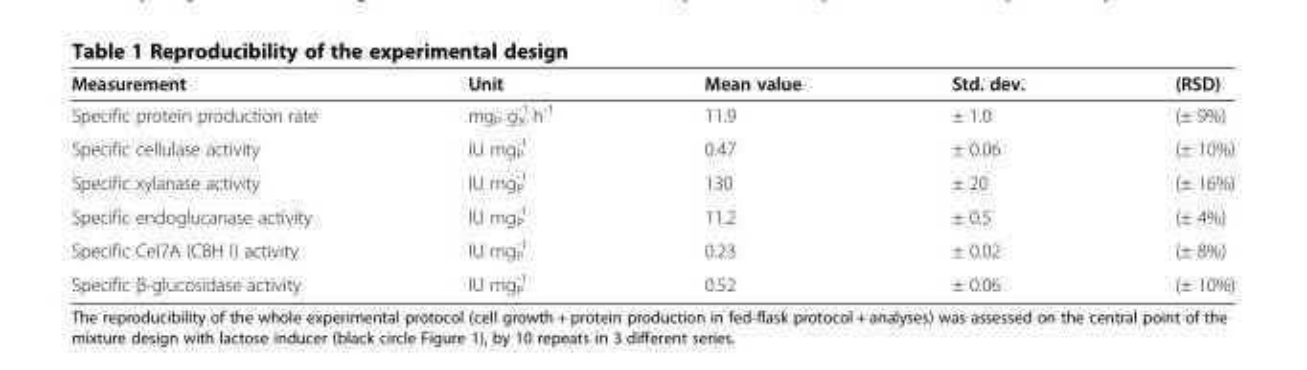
<table><thead><tr><td>Measurement</td><td>Unit</td><td>Mean value</td><td>Std. dev.</td><td>(RSD)</td></tr></thead><tbody><tr><td>Specific protein production rate</td><td>mg<sub>P</sub> g<sub>X</sub> <sup>-1</sup> h<sup>-1</sup></td><td>11.9</td><td>± 1.0</td><td>(± 9%)</td></tr><tr><td>Specific cellulase activity</td><td>IU mg<sub>P</sub> <sup>-1</sup></td><td>0.47</td><td>± 0.06</td><td>(± 10%)</td></tr><tr><td>Specific xylanase activity</td><td>IU mg<sub>P</sub> <sup>-1</sup></td><td>130</td><td>± 20</td><td>(± 16%)</td></tr><tr><td>Specific endoglucanase activity</td><td>IU mg<sub>P</sub> <sup>-1</sup></td><td>11.2</td><td>± 0.5</td><td>(± 4%)</td></tr><tr><td>Specific Cel7A (CBH I) activity</td><td>IU mg<sub>P</sub> <sup>-1</sup></td><td>0.23</td><td>± 0.02</td><td>(± 8%)</td></tr><tr><td>Specific β-glucosidase activity</td><td>IU mg<sub>P</sub> <sup>-1</sup></td><td>0.52</td><td>± 0.06</td><td>(± 10%)</td></tr></tbody></table>